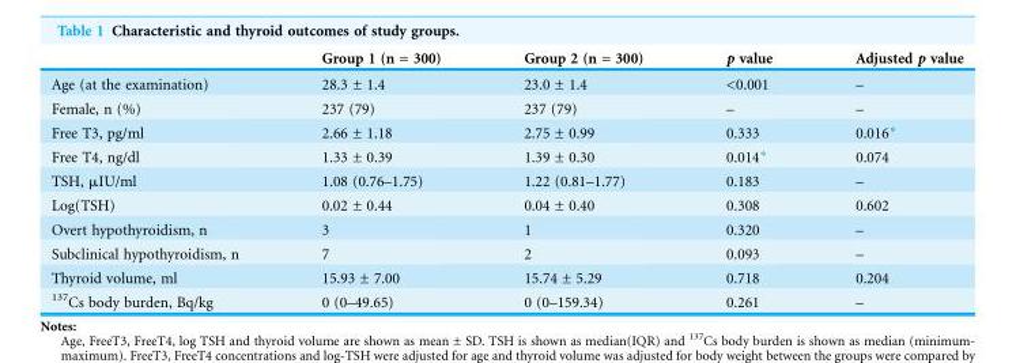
<table><thead><tr><td></td><td>Group 1 (n = 300)</td><td>Group 2 (n = 300)</td><td>p value</td><td>Adjusted p value</td></tr></thead><tbody><tr><td>Age (at the examination)</td><td>28.3 ± 1.4</td><td>23.0 ± 1.4</td><td>&lt;0.001</td><td>–</td></tr><tr><td>Female, n (%)</td><td>237 (79)</td><td>237 (79)</td><td>–</td><td>–</td></tr><tr><td>Free T3, pg/ml</td><td>2.66 ± 1.18</td><td>2.75 ± 0.99</td><td>0.333</td><td>0.016*</td></tr><tr><td>Free T4, ng/dl</td><td>1.33 ± 0.39</td><td>1.39 ± 0.30</td><td>0.014*</td><td>0.074</td></tr><tr><td>TSH, μIU/ml</td><td>1.08 (0.76–1.75)</td><td>1.22 (0.81–1.77)</td><td>0.183</td><td>–</td></tr><tr><td>Log(TSH)</td><td>0.02 ± 0.44</td><td>0.04 ± 0.40</td><td>0.308</td><td>0.602</td></tr><tr><td>Overt hypothyroidism, n</td><td>3</td><td>1</td><td>0.320</td><td>–</td></tr><tr><td>Subclinical hypothyroidism, n</td><td>7</td><td>2</td><td>0.093</td><td>–</td></tr><tr><td>Thyroid volume, ml</td><td>15.93 ± 7.00</td><td>15.74 ± 5.29</td><td>0.718</td><td>0.204</td></tr><tr><td><sup>137</sup>Cs body burden, Bq/kg</td><td>0 (0–49.65)</td><td>0 (0–159.34)</td><td>0.261</td><td>–</td></tr></tbody></table>